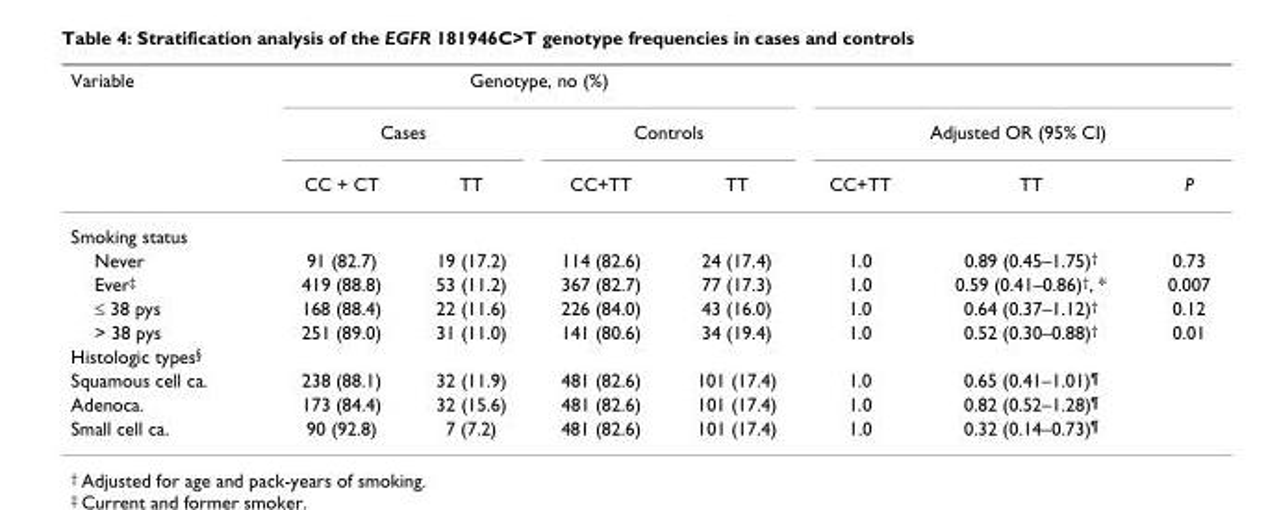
<table><thead><tr><td rowspan="3">Variable</td><td colspan="4">Genotype, no (%)</td><td></td><td></td><td></td></tr><tr><td colspan="2">Cases</td><td colspan="2">Controls</td><td colspan="3">Adjusted OR (95% CI)</td></tr><tr><td>CC + CT</td><td>TT</td><td>CC+TT</td><td>TT</td><td>CC+TT</td><td>TT</td><td>P</td></tr></thead><tbody><tr><td colspan="8">Smoking status</td></tr><tr><td>Never</td><td>91 (82.7)</td><td>19 (17.2)</td><td>114 (82.6)</td><td>24 (17.4)</td><td>1.0</td><td>0.89 (0.45–1.75)<sup>†</sup></td><td>0.73</td></tr><tr><td>Ever<sup>‡</sup></td><td>419 (88.8)</td><td>53 (11.2)</td><td>367 (82.7)</td><td>77 (17.3)</td><td>1.0</td><td>0.59 (0.41–0.86)<sup>†</sup>, *</td><td>0.007</td></tr><tr><td>≤ 38 pys</td><td>168 (88.4)</td><td>22 (11.6)</td><td>226 (84.0)</td><td>43 (16.0)</td><td>1.0</td><td>0.64 (0.37–1.12)<sup>†</sup></td><td>0.12</td></tr><tr><td>&gt; 38 pys</td><td>251 (89.0)</td><td>31 (11.0)</td><td>141 (80.6)</td><td>34 (19.4)</td><td>1.0</td><td>0.52 (0.30–0.88)<sup>†</sup></td><td>0.01</td></tr><tr><td colspan="8">Histologic types<sup>§</sup></td></tr><tr><td>Squamous cell ca.</td><td>238 (88.1)</td><td>32 (11.9)</td><td>481 (82.6)</td><td>101 (17.4)</td><td>1.0</td><td>0.65 (0.41–1.01)<sup>¶</sup></td><td></td></tr><tr><td>Adenoca.</td><td>173 (84.4)</td><td>32 (15.6)</td><td>481 (82.6)</td><td>101 (17.4)</td><td>1.0</td><td>0.82 (0.52–1.28)<sup>¶</sup></td><td></td></tr><tr><td>Small cell ca.</td><td>90 (92.8)</td><td>7 (7.2)</td><td>481 (82.6)</td><td>101 (17.4)</td><td>1.0</td><td>0.32 (0.14–0.73)<sup>¶</sup></td><td></td></tr></tbody></table>